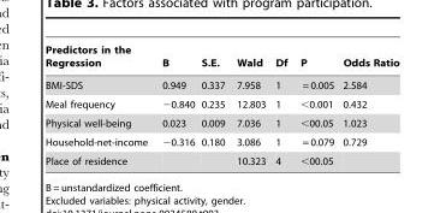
<table><thead><tr><td>Predictors in the Regression</td><td>B</td><td>S.E.</td><td>Wald</td><td>Df</td><td>P</td><td>Odds Ratio</td></tr></thead><tbody><tr><td>BMI-SDS</td><td>0.949</td><td>0.337</td><td>7.958</td><td>1</td><td>= 0.005</td><td>2.584</td></tr><tr><td>Meal frequency</td><td>−0.840</td><td>0.235</td><td>12.803</td><td>1</td><td>&lt;0.001</td><td>0.432</td></tr><tr><td>Physical well-being</td><td>0.023</td><td>0.009</td><td>7.036</td><td>1</td><td>&lt;00.05</td><td>1.023</td></tr><tr><td>Household-net-income</td><td>−0.316</td><td>0.180</td><td>3.086</td><td>1</td><td>= 0.079</td><td>0.729</td></tr><tr><td>Place of residence</td><td></td><td></td><td>10.323</td><td>4</td><td>&lt;00.05</td><td></td></tr></tbody></table>